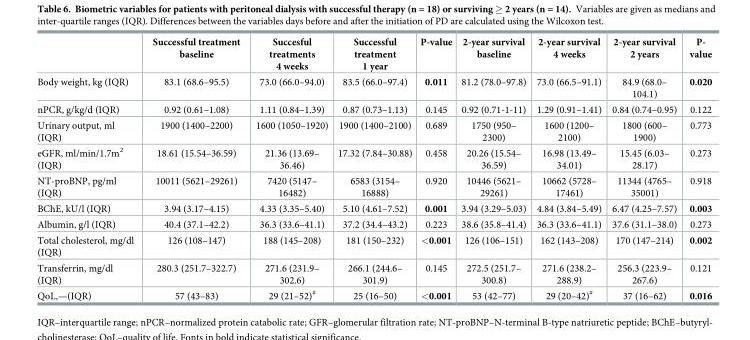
<table><thead><tr><td></td><td>Successful treatment baseline</td><td>Succesful treatments 4 weeks</td><td>Successful treatment 1 year</td><td>P-value</td><td>2-year survival baseline</td><td>2-year survival 4 weeks</td><td>2-year survival 2 years</td><td>P- value</td></tr></thead><tbody><tr><td>Body weight, kg (IQR)</td><td>83.1 (68.6–95.5)</td><td>73.0 (66.0–94.0)</td><td>83.5 (66.0–97.4)</td><td>0.011</td><td>81.2 (78.0–97.8)</td><td>73.0 (66.5–91.1)</td><td>84.9 (68.0– 104.1)</td><td>0.020</td></tr><tr><td>nPCR, g/kg/d (IQR)</td><td>0.92 (0.61–1.08)</td><td>1.11 (0.84–1.39)</td><td>0.87 (0.73–1.13)</td><td>0.145</td><td>0.92 (0.71-1-11)</td><td>1.29 (0.91–1.41)</td><td>0.84 (0.74–0.95)</td><td>0.122</td></tr><tr><td>Urinary output, ml (IQR)</td><td>1900 (1400–2200)</td><td>1600 (1050–1920)</td><td>1900 (1400–2100)</td><td>0.689</td><td>1750 (950– 2300)</td><td>1600 (1200– 2100)</td><td>1800 (600– 1900)</td><td>0.773</td></tr><tr><td>eGFR, ml/min/1.7m<sup>2</sup> (IQR)</td><td>18.61 (15.54–36.59)</td><td>21.36 (13.69– 36.46)</td><td>17.32 (7.84–30.88)</td><td>0.458</td><td>20.26 (15.54– 36.59)</td><td>16.98 (13.49– 34.01)</td><td>15.45 (6.03– 28.17)</td><td>0.273</td></tr><tr><td>NT-proBNP, pg/ml (IQR)</td><td>10011 (5621–29261)</td><td>7420 (5147– 16482)</td><td>6583 (3154– 16888)</td><td>0.920</td><td>10446 (5621– 29261)</td><td>10662 (5728– 17461)</td><td>11344 (4765– 35001)</td><td>0.918</td></tr><tr><td>BChE, kU/l (IQR)</td><td>3.94 (3.17–4.15)</td><td>4.33 (3.35–5.40)</td><td>5.10 (4.61–7.52)</td><td>0.001</td><td>3.94 (3.29–5.03)</td><td>4.84 (3.84–5.49)</td><td>6.47 (4.25–7.57)</td><td>0.003</td></tr><tr><td>Albumin, g/l (IQR)</td><td>40.4 (37.1–42.2)</td><td>36.3 (33.6–41.1)</td><td>37.2 (34.4–43.2)</td><td>0.223</td><td>38.6 (35.8–41.4)</td><td>36.3 (33.6–41.1)</td><td>37.6 (31.1–38.0)</td><td>0.273</td></tr><tr><td>Total cholesterol, mg/dl (IQR)</td><td>126 (108–147)</td><td>188 (145–208)</td><td>181 (150–232)</td><td>&lt;0.001</td><td>126 (106–151)</td><td>162 (143–208)</td><td>170 (147–214)</td><td>0.002</td></tr><tr><td>Transferrin, mg/dl (IQR)</td><td>280.3 (251.7–322.7)</td><td>271.6 (231.9– 302.6)</td><td>266.1 (244.6– 301.9)</td><td>0.145</td><td>272.5 (251.7– 300.8)</td><td>271.6 (238.2– 288.9)</td><td>256.3 (223.9– 267.6)</td><td>0.121</td></tr><tr><td>QoL,—(IQR)</td><td>57 (43–83)</td><td>29 (21–52)<sup>#</sup></td><td>25 (16–50)</td><td>&lt;0.001</td><td>53 (42–77)</td><td>29 (20–42)<sup>#</sup></td><td>37 (16–62)</td><td>0.016</td></tr></tbody></table>